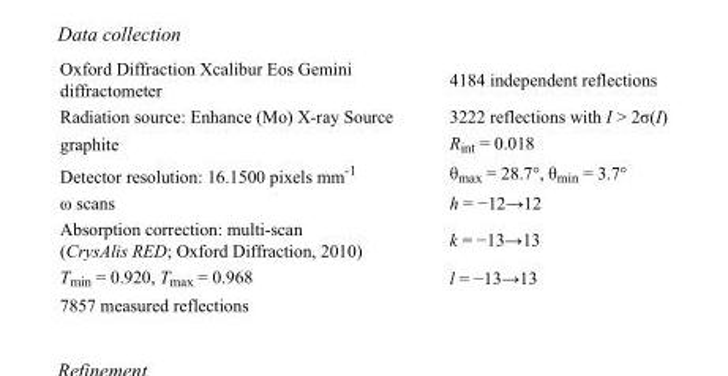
<table><tbody><tr><td>Oxford Diffraction Xcalibur Eos Gemini diffractometer</td><td>4184 independent reflections</td></tr><tr><td>Radiation source: Enhance (Mo) X-ray Source</td><td>3222 reflections with I &gt; 2σ(I)</td></tr><tr><td>graphite</td><td>R<sub>int</sub> = 0.018</td></tr><tr><td>Detector resolution: 16.1500 pixels mm<sup>-1</sup></td><td>θ<sub>max</sub> = 28.7°, θ<sub>min</sub> = 3.7°</td></tr><tr><td>ω scans</td><td>h = −12→12</td></tr><tr><td>Absorption correction: multi-scan (CrysAlis RED; Oxford Diffraction, 2010)</td><td>k = −13→13</td></tr><tr><td>T<sub>min</sub> = 0.920, T<sub>max</sub> = 0.968</td><td>l = −13→13</td></tr><tr><td>7857 measured reflections</td><td></td></tr></tbody></table>